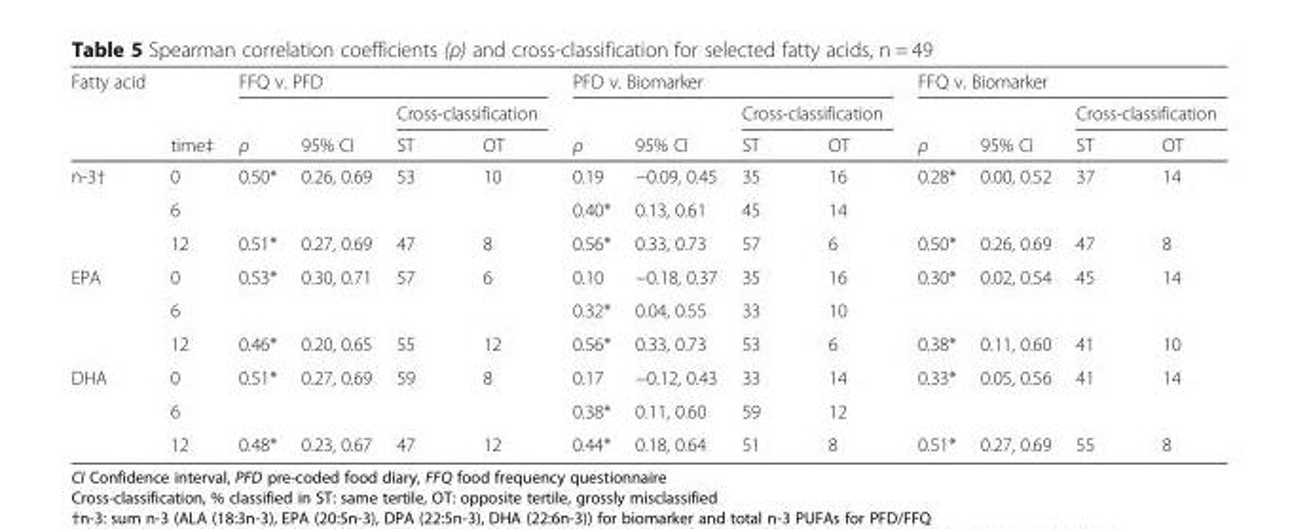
<table><thead><tr><td rowspan="3">Fatty acid</td><td rowspan="3">time‡</td><td colspan="4">FFQ v. PFD</td><td colspan="4">PFD v. Biomarker</td><td colspan="4">FFQ v. Biomarker</td></tr><tr><td rowspan="2">ρ</td><td rowspan="2">95% CI</td><td colspan="2">Cross-classification</td><td rowspan="2">ρ</td><td rowspan="2">95% CI</td><td colspan="2">Cross-classification</td><td rowspan="2">ρ</td><td rowspan="2">95% CI</td><td colspan="2">Cross-classification</td></tr><tr><td>ST</td><td>OT</td><td>ST</td><td>OT</td><td>ST</td><td>OT</td></tr></thead><tbody><tr><td rowspan="3">n-3†</td><td>0</td><td>0.50*</td><td>0.26, 0.69</td><td>53</td><td>10</td><td>0.19</td><td>−0.09, 0.45</td><td>35</td><td>16</td><td>0.28*</td><td>0.00, 0.52</td><td>37</td><td>14</td></tr><tr><td>6</td><td></td><td></td><td></td><td></td><td>0.40*</td><td>0.13, 0.61</td><td>45</td><td>14</td><td></td><td></td><td></td><td></td></tr><tr><td>12</td><td>0.51*</td><td>0.27, 0.69</td><td>47</td><td>8</td><td>0.56*</td><td>0.33, 0.73</td><td>57</td><td>6</td><td>0.50*</td><td>0.26, 0.69</td><td>47</td><td>8</td></tr><tr><td rowspan="3">EPA</td><td>0</td><td>0.53*</td><td>0.30, 0.71</td><td>57</td><td>6</td><td>0.10</td><td>−0.18, 0.37</td><td>35</td><td>16</td><td>0.30*</td><td>0.02, 0.54</td><td>45</td><td>14</td></tr><tr><td>6</td><td></td><td></td><td></td><td></td><td>0.32*</td><td>0.04, 0.55</td><td>33</td><td>10</td><td></td><td></td><td></td><td></td></tr><tr><td>12</td><td>0.46*</td><td>0.20, 0.65</td><td>55</td><td>12</td><td>0.56*</td><td>0.33, 0.73</td><td>53</td><td>6</td><td>0.38*</td><td>0.11, 0.60</td><td>41</td><td>10</td></tr><tr><td rowspan="3">DHA</td><td>0</td><td>0.51*</td><td>0.27, 0.69</td><td>59</td><td>8</td><td>0.17</td><td>−0.12, 0.43</td><td>33</td><td>14</td><td>0.33*</td><td>0.05, 0.56</td><td>41</td><td>14</td></tr><tr><td>6</td><td></td><td></td><td></td><td></td><td>0.38*</td><td>0.11, 0.60</td><td>59</td><td>12</td><td></td><td></td><td></td><td></td></tr><tr><td>12</td><td>0.48*</td><td>0.23, 0.67</td><td>47</td><td>12</td><td>0.44*</td><td>0.18, 0.64</td><td>51</td><td>8</td><td>0.51*</td><td>0.27, 0.69</td><td>55</td><td>8</td></tr></tbody></table>